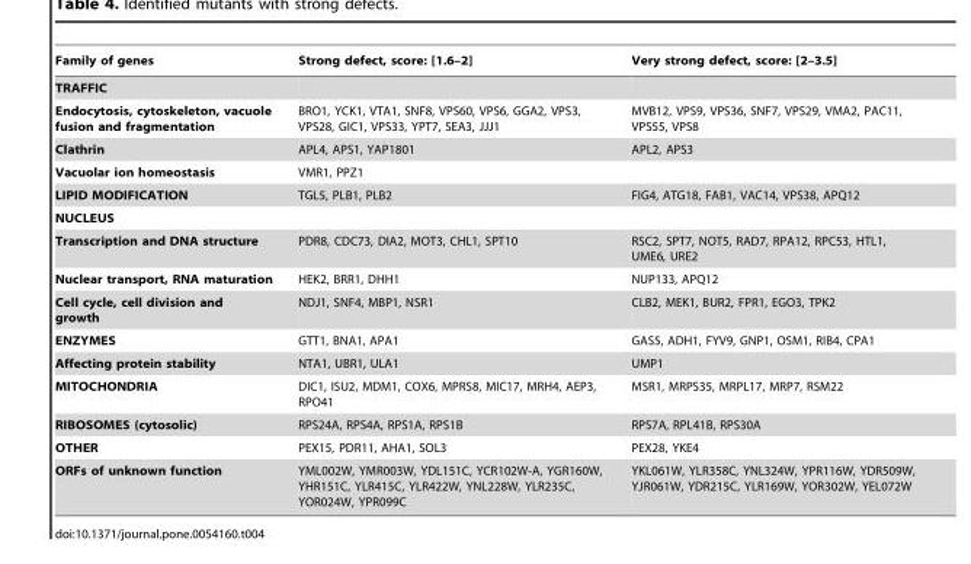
<table><thead><tr><td>Family of genes</td><td>Strong defect, score: [1.6–2]</td><td>Very strong defect, score: [2–3.5]</td></tr></thead><tbody><tr><td colspan="3">TRAFFIC</td></tr><tr><td>Endocytosis, cytoskeleton, vacuole fusion and fragmentation</td><td>BRO1, YCK1, VTA1, SNF8, VPS60, VPS6, GGA2, VPS3, VPS28, GIC1, VPS33, YPT7, SEA3, JJJ1</td><td>MVB12, VPS9, VPS36, SNF7, VPS29, VMA2, PAC11, VPS55, VPS8</td></tr><tr><td>Clathrin</td><td>APL4, APS1, YAP1801</td><td>APL2, APS3</td></tr><tr><td>Vacuolar ion homeostasis</td><td>VMR1, PPZ1</td><td></td></tr><tr><td>LIPID MODIFICATION</td><td>TGL5, PLB1, PLB2</td><td>FIG4, ATG18, FAB1, VAC14, VPS38, APQ12</td></tr><tr><td colspan="3">NUCLEUS</td></tr><tr><td>Transcription and DNA structure</td><td>PDR8, CDC73, DIA2, MOT3, CHL1, SPT10</td><td>RSC2, SPT7, NOT5, RAD7, RPA12, RPC53, HTL1, UME6, URE2</td></tr><tr><td>Nuclear transport, RNA maturation</td><td>HEK2, BRR1, DHH1</td><td>NUP133, APQ12</td></tr><tr><td>Cell cycle, cell division and growth</td><td>NDJ1, SNF4, MBP1, NSR1</td><td>CLB2, MEK1, BUR2, FPR1, EGO3, TPK2</td></tr><tr><td>ENZYMES</td><td>GTT1, BNA1, APA1</td><td>GAS5, ADH1, FYV9, GNP1, OSM1, RIB4, CPA1</td></tr><tr><td>Affecting protein stability</td><td>NTA1, UBR1, ULA1</td><td>UMP1</td></tr><tr><td>MITOCHONDRIA</td><td>DIC1, ISU2, MDM1, COX6, MPRS8, MIC17, MRH4, AEP3, RPO41</td><td>MSR1, MRPS35, MRPL17, MRP7, RSM22</td></tr><tr><td>RIBOSOMES (cytosolic)</td><td>RPS24A, RPS4A, RPS1A, RPS1B</td><td>RPS7A, RPL41B, RPS30A</td></tr><tr><td>OTHER</td><td>PEX15, PDR11, AHA1, SOL3</td><td>PEX28, YKE4</td></tr><tr><td>ORFs of unknown function</td><td>YML002W, YMR003W, YDL151C, YCR102W-A, YGR160W, YHR151C, YLR415C, YLR422W, YNL228W, YLR235C, YOR024W, YPR099C</td><td>YKL061W, YLR358C, YNL324W, YPR116W, YDR509W, YJR061W, YDR215C, YLR169W, YOR302W, YEL072W</td></tr></tbody></table>